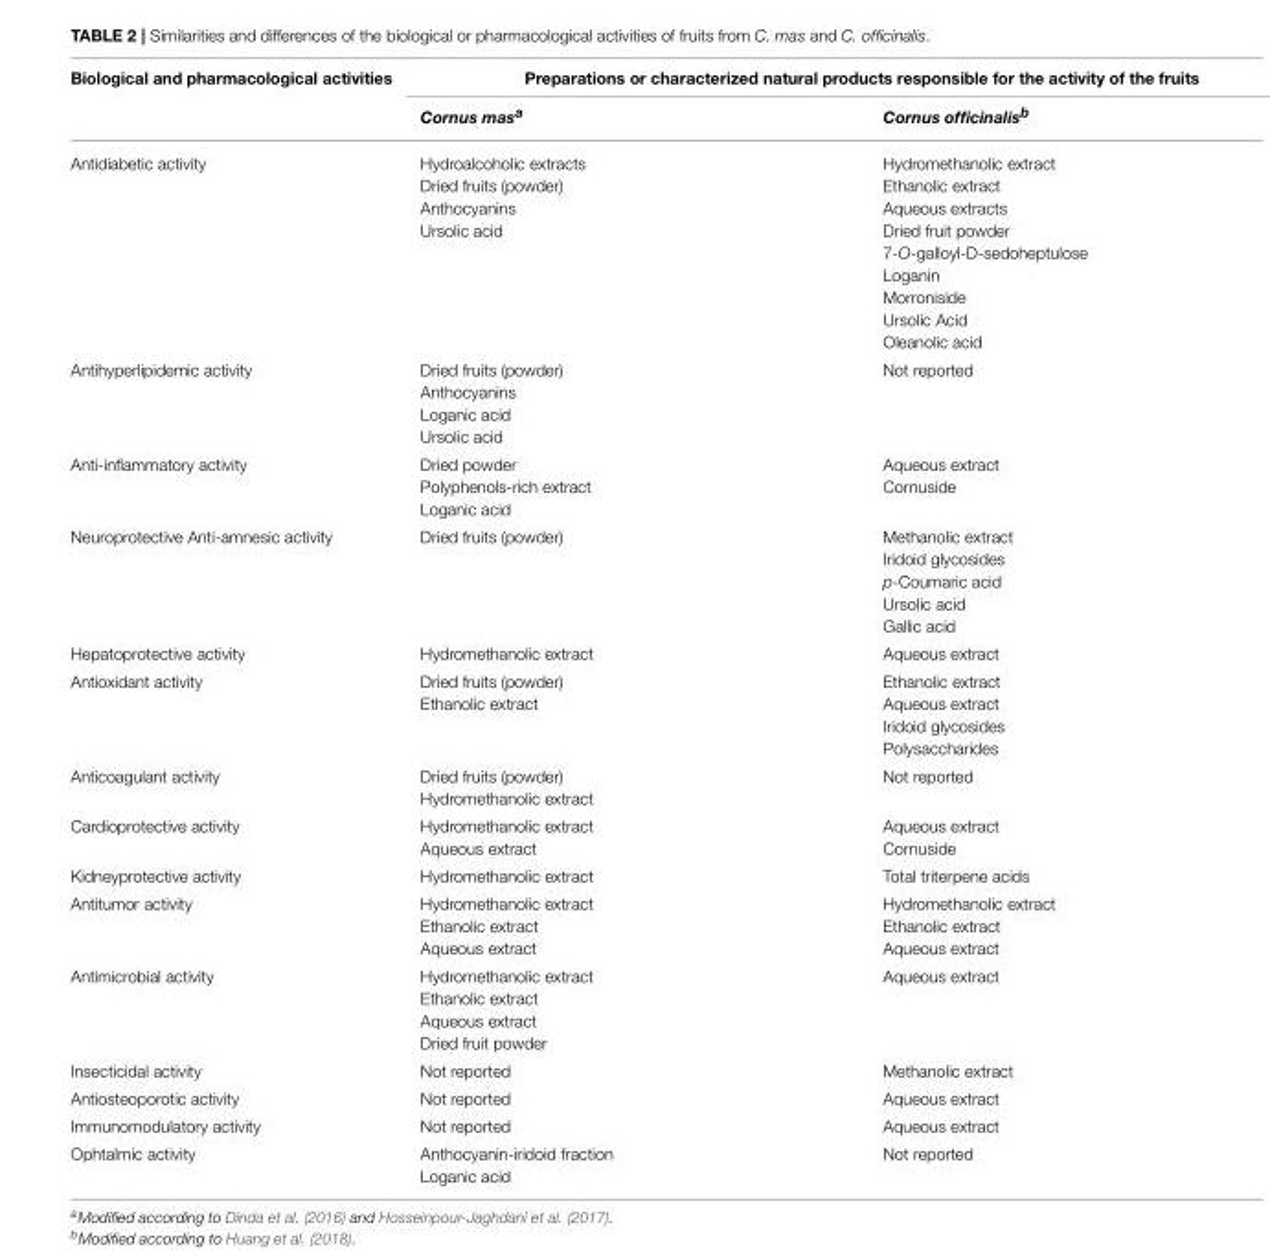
<table><thead><tr><td rowspan="2">Biological and pharmacological activities</td><td colspan="2">Preparations or characterized natural products responsible for the activity of the fruits</td></tr><tr><td>Cornus mas<sup>a</sup></td><td>Cornus officinalis<sup>b</sup></td></tr></thead><tbody><tr><td>Antidiabetic activity</td><td>Hydroalcoholic extracts Dried fruits (powder) Anthocyanins Ursolic acid</td><td>Hydromethanolic extract Ethanolic extract Aqueous extracts Dried fruit powder 7-O-galloyl-D-sedoheptulose Loganin Morroniside Ursolic Acid Oleanolic acid</td></tr><tr><td>Antihyperlipidemic activity</td><td>Dried fruits (powder) Anthocyanins Loganic acid Ursolic acid</td><td>Not reported</td></tr><tr><td>Anti-inflammatory activity</td><td>Dried powder Polyphenols-rich extract Loganic acid</td><td>Aqueous extract Cornuside</td></tr><tr><td>Neuroprotective Anti-amnesic activity</td><td>Dried fruits (powder)</td><td>Methanolic extract Iridoid glycosides p-Coumaric acid Ursolic acid Gallic acid</td></tr><tr><td>Hepatoprotective activity</td><td>Hydromethanolic extract</td><td>Aqueous extract</td></tr><tr><td>Antioxidant activity</td><td>Dried fruits (powder) Ethanolic extract</td><td>Ethanolic extract Aqueous extract Iridoid glycosides Polysaccharides</td></tr><tr><td>Anticoagulant activity</td><td>Dried fruits (powder) Hydromethanolic extract</td><td>Not reported</td></tr><tr><td>Cardioprotective activity</td><td>Hydromethanolic extract Aqueous extract</td><td>Aqueous extract Cornuside</td></tr><tr><td>Kidneyprotective activity</td><td>Hydromethanolic extract</td><td>Total triterpene acids</td></tr><tr><td>Antitumor activity</td><td>Hydromethanolic extract Ethanolic extract Aqueous extract</td><td>Hydromethanolic extract Ethanolic extract Aqueous extract</td></tr><tr><td>Antimicrobial activity</td><td>Hydromethanolic extract Ethanolic extract Aqueous extract Dried fruit powder</td><td>Aqueous extract</td></tr><tr><td>Insecticidal activity</td><td>Not reported</td><td>Methanolic extract</td></tr><tr><td>Antiosteoporotic activity</td><td>Not reported</td><td>Aqueous extract</td></tr><tr><td>Immunomodulatory activity</td><td>Not reported</td><td>Aqueous extract</td></tr><tr><td>Ophtalmic activity</td><td>Anthocyanin-iridoid fraction Loganic acid</td><td>Not reported</td></tr></tbody></table>